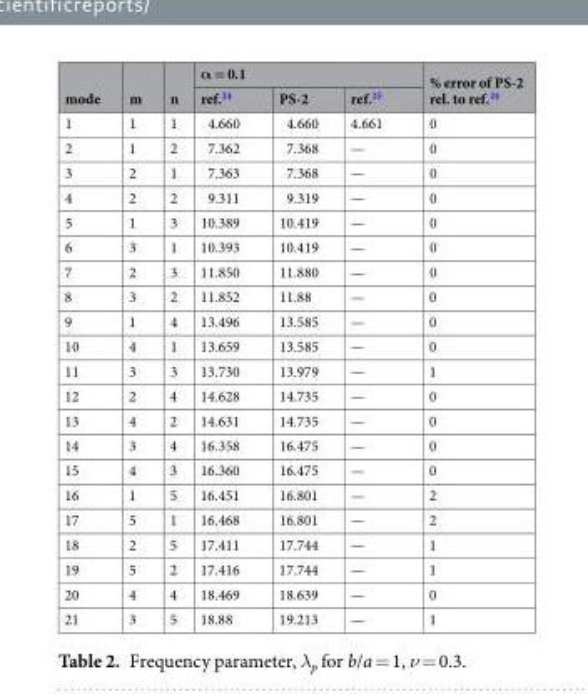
<table><thead><tr><td rowspan="2">mode</td><td rowspan="2">m</td><td rowspan="2">n</td><td colspan="3">α = 0.1</td><td rowspan="2">% error of PS-2 rel. to ref.<sup>24</sup></td></tr><tr><td>ref.<sup>24</sup></td><td>PS-2</td><td>ref.<sup>25</sup></td></tr></thead><tbody><tr><td>1</td><td>1</td><td>1</td><td>4.660</td><td>4.660</td><td>4.661</td><td>0</td></tr><tr><td>2</td><td>1</td><td>2</td><td>7.362</td><td>7.368</td><td>—</td><td>0</td></tr><tr><td>3</td><td>2</td><td>1</td><td>7.363</td><td>7.368</td><td>—</td><td>0</td></tr><tr><td>4</td><td>2</td><td>2</td><td>9.311</td><td>9.319</td><td>—</td><td>0</td></tr><tr><td>5</td><td>1</td><td>3</td><td>10.389</td><td>10.419</td><td>—</td><td>0</td></tr><tr><td>6</td><td>3</td><td>1</td><td>10.393</td><td>10.419</td><td>—</td><td>0</td></tr><tr><td>7</td><td>2</td><td>3</td><td>11.850</td><td>11.880</td><td>—</td><td>0</td></tr><tr><td>8</td><td>3</td><td>2</td><td>11.852</td><td>11.88</td><td>—</td><td>0</td></tr><tr><td>9</td><td>1</td><td>4</td><td>13.496</td><td>13.585</td><td>—</td><td>0</td></tr><tr><td>10</td><td>4</td><td>1</td><td>13.659</td><td>13.585</td><td>—</td><td>0</td></tr><tr><td>11</td><td>3</td><td>3</td><td>13.730</td><td>13.979</td><td>—</td><td>1</td></tr><tr><td>12</td><td>2</td><td>4</td><td>14.628</td><td>14.735</td><td>—</td><td>0</td></tr><tr><td>13</td><td>4</td><td>2</td><td>14.631</td><td>14.735</td><td>—</td><td>0</td></tr><tr><td>14</td><td>3</td><td>4</td><td>16.358</td><td>16.475</td><td>—</td><td>0</td></tr><tr><td>15</td><td>4</td><td>3</td><td>16.360</td><td>16.475</td><td>—</td><td>0</td></tr><tr><td>16</td><td>1</td><td>5</td><td>16.451</td><td>16.801</td><td>—</td><td>2</td></tr><tr><td>17</td><td>5</td><td>1</td><td>16.468</td><td>16.801</td><td>—</td><td>2</td></tr><tr><td>18</td><td>2</td><td>5</td><td>17.411</td><td>17.744</td><td>—</td><td>1</td></tr><tr><td>19</td><td>5</td><td>2</td><td>17.416</td><td>17.744</td><td>—</td><td>1</td></tr><tr><td>20</td><td>4</td><td>4</td><td>18.469</td><td>18.639</td><td>—</td><td>0</td></tr><tr><td>21</td><td>3</td><td>5</td><td>18.88</td><td>19.213</td><td>—</td><td>1</td></tr></tbody></table>